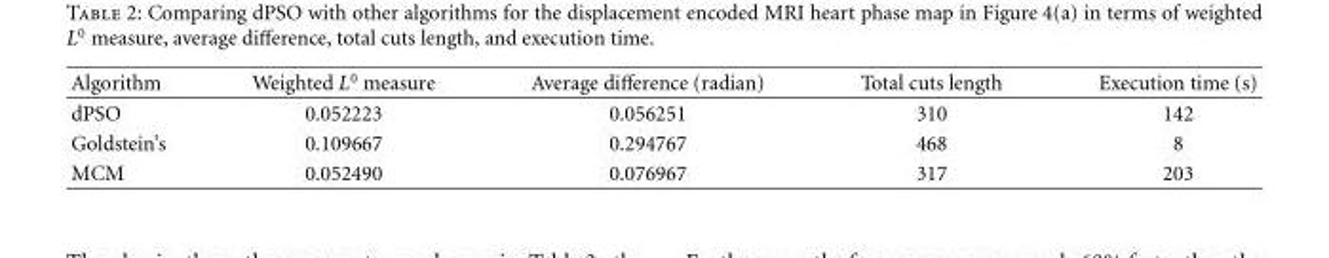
<table><thead><tr><td>Algorithm</td><td>Weighted L<sup>0</sup> measure</td><td>Average difference (radian)</td><td>Total cuts length</td><td>Execution time (s)</td></tr></thead><tbody><tr><td>dPSO</td><td>0.052223</td><td>0.056251</td><td>310</td><td>142</td></tr><tr><td>Goldstein’s</td><td>0.109667</td><td>0.294767</td><td>468</td><td>8</td></tr><tr><td>MCM</td><td>0.052490</td><td>0.076967</td><td>317</td><td>203</td></tr></tbody></table>